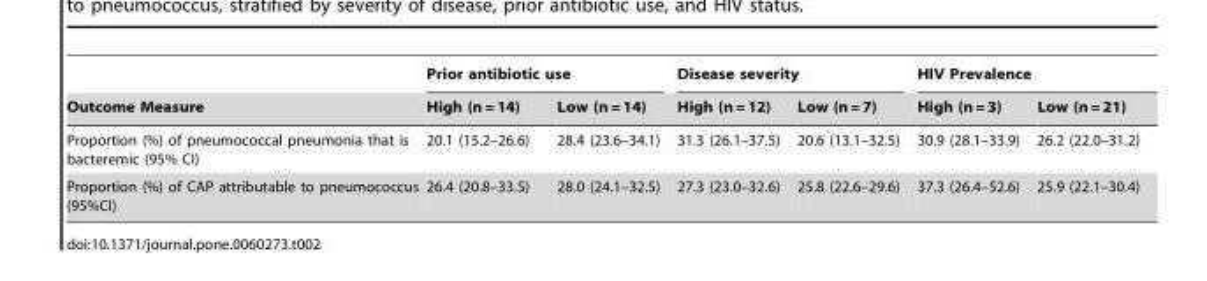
<table><thead><tr><td rowspan="2">Outcome Measure</td><td colspan="2">Prior antibiotic use</td><td colspan="2">Disease severity</td><td colspan="2">HIV Prevalence</td></tr><tr><td>High (n = 14)</td><td>Low (n = 14)</td><td>High (n = 12)</td><td>Low (n = 7)</td><td>High (n = 3)</td><td>Low (n = 21)</td></tr></thead><tbody><tr><td>Proportion (%) of pneumococcal pneumonia that is bacteremic (95% CI)</td><td>20.1 (15.2–26.6)</td><td>28.4 (23.6–34.1)</td><td>31.3 (26.1–37.5)</td><td>20.6 (13.1–32.5)</td><td>30.9 (28.1–33.9)</td><td>26.2 (22.0–31.2)</td></tr><tr><td>Proportion (%) of CAP attributable to pneumococcus (95%CI)</td><td>26.4 (20.8–33.5)</td><td>28.0 (24.1–32.5)</td><td>27.3 (23.0–32.6)</td><td>25.8 (22.6–29.6)</td><td>37.3 (26.4–52.6)</td><td>25.9 (22.1–30.4)</td></tr></tbody></table>